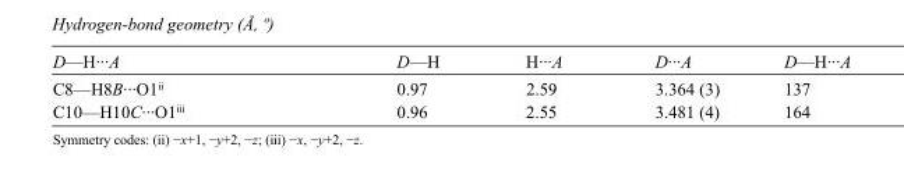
<table><tbody><tr><td>D—H···A</td><td>D—H</td><td>H···A</td><td>D···A</td><td>D—H···A</td></tr><tr><td>C8—H8B···O1<sup>ii</sup></td><td>0.97</td><td>2.59</td><td>3.364 (3)</td><td>137</td></tr><tr><td>C10—H10C···O1<sup>iii</sup></td><td>0.96</td><td>2.55</td><td>3.481 (4)</td><td>164</td></tr></tbody></table>